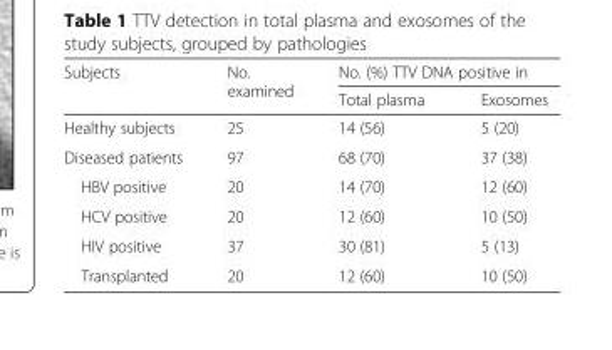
<table><thead><tr><td rowspan="2">Subjects</td><td rowspan="2">No. examined</td><td colspan="2">No. (%) TTV DNA positive in</td></tr><tr><td>Total plasma</td><td>Exosomes</td></tr></thead><tbody><tr><td>Healthy subjects</td><td>25</td><td>14 (56)</td><td>5 (20)</td></tr><tr><td>Diseased patients</td><td>97</td><td>68 (70)</td><td>37 (38)</td></tr><tr><td>HBV positive</td><td>20</td><td>14 (70)</td><td>12 (60)</td></tr><tr><td>HCV positive</td><td>20</td><td>12 (60)</td><td>10 (50)</td></tr><tr><td>HIV positive</td><td>37</td><td>30 (81)</td><td>5 (13)</td></tr><tr><td>Transplanted</td><td>20</td><td>12 (60)</td><td>10 (50)</td></tr></tbody></table>